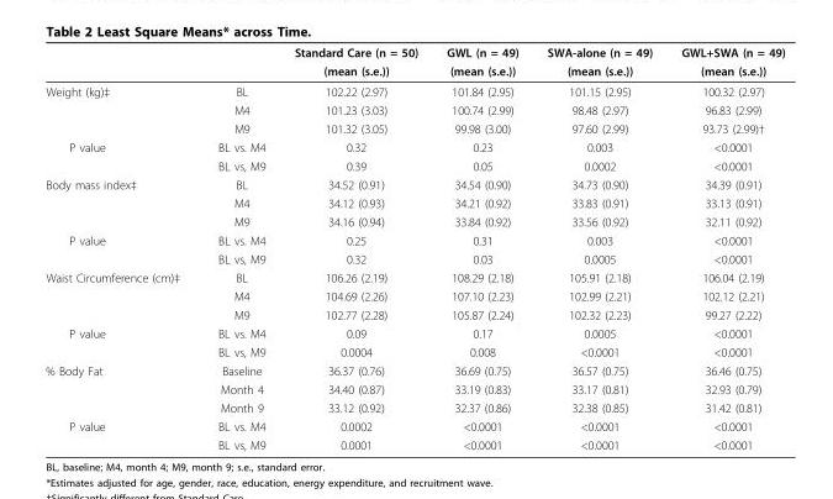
<table><thead><tr><td rowspan="2"></td><td rowspan="2"></td><td rowspan="2">Standard Care (n = 50) (mean (s.e.))</td><td rowspan="2">GWL (n = 49) (mean (s.e.))</td><td rowspan="2">SWA-alone (n = 49) (mean (s.e.))</td><td rowspan="2">GWL+SWA (n = 49) (mean (s.e.))</td></tr><tr></tr></thead><tbody><tr><td rowspan="3">Weight (kg)‡</td><td>BL</td><td>102.22 (2.97)</td><td>101.84 (2.95)</td><td>101.15 (2.95)</td><td>100.32 (2.97)</td></tr><tr><td>M4</td><td>101.23 (3.03)</td><td>100.74 (2.99)</td><td>98.48 (2.97)</td><td>96.83 (2.99)</td></tr><tr><td>M9</td><td>101.32 (3.05)</td><td>99.98 (3.00)</td><td>97.60 (2.99)</td><td>93.73 (2.99)†</td></tr><tr><td rowspan="2">P value</td><td>BL vs. M4</td><td>0.32</td><td>0.23</td><td>0.003</td><td>&lt;0.0001</td></tr><tr><td>BL vs, M9</td><td>0.39</td><td>0.05</td><td>0.0002</td><td>&lt;0.0001</td></tr><tr><td rowspan="3">Body mass index‡</td><td>BL</td><td>34.52 (0.91)</td><td>34.54 (0.90)</td><td>34.73 (0.90)</td><td>34.39 (0.91)</td></tr><tr><td>M4</td><td>34.12 (0.93)</td><td>34.21 (0.92)</td><td>33.83 (0.91)</td><td>33.13 (0.91)</td></tr><tr><td>M9</td><td>34.16 (0.94)</td><td>33.84 (0.92)</td><td>33.56 (0.92)</td><td>32.11 (0.92)</td></tr><tr><td rowspan="2">P value</td><td>BL vs. M4</td><td>0.25</td><td>0.31</td><td>0.003</td><td>&lt;0.0001</td></tr><tr><td>BL vs, M9</td><td>0.32</td><td>0.03</td><td>0.0005</td><td>&lt;0.0001</td></tr><tr><td rowspan="3">Waist Circumference (cm)‡</td><td>BL</td><td>106.26 (2.19)</td><td>108.29 (2.18)</td><td>105.91 (2.18)</td><td>106.04 (2.19)</td></tr><tr><td>M4</td><td>104.69 (2.26)</td><td>107.10 (2.23)</td><td>102.99 (2.21)</td><td>102.12 (2.21)</td></tr><tr><td>M9</td><td>102.77 (2.28)</td><td>105.87 (2.24)</td><td>102.32 (2.23)</td><td>99.27 (2.22)</td></tr><tr><td rowspan="2">P value</td><td>BL vs. M4</td><td>0.09</td><td>0.17</td><td>0.0005</td><td>&lt;0.0001</td></tr><tr><td>BL vs, M9</td><td>0.0004</td><td>0.008</td><td>&lt;0.0001</td><td>&lt;0.0001</td></tr><tr><td rowspan="3">% Body Fat</td><td>Baseline</td><td>36.37 (0.76)</td><td>36.69 (0.75)</td><td>36.57 (0.75)</td><td>36.46 (0.75)</td></tr><tr><td>Month 4</td><td>34.40 (0.87)</td><td>33.19 (0.83)</td><td>33.17 (0.81)</td><td>32.93 (0.79)</td></tr><tr><td>Month 9</td><td>33.12 (0.92)</td><td>32.37 (0.86)</td><td>32.38 (0.85)</td><td>31.42 (0.81)</td></tr><tr><td rowspan="2">P value</td><td>BL vs. M4</td><td>0.0002</td><td>&lt;0.0001</td><td>&lt;0.0001</td><td>&lt;0.0001</td></tr><tr><td>BL vs, M9</td><td>0.0001</td><td>&lt;0.0001</td><td>&lt;0.0001</td><td>&lt;0.0001</td></tr></tbody></table>